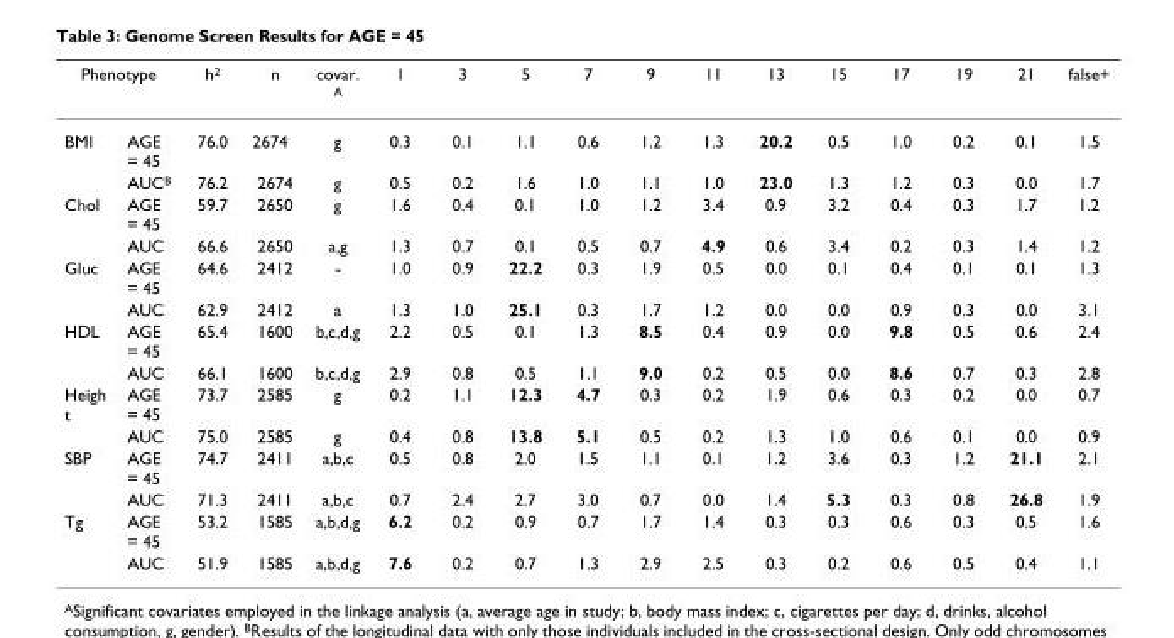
<table><thead><tr><td colspan="2">Phenotype</td><td rowspan="2">h2 76.0</td><td rowspan="2">n 2674</td><td rowspan="2">covar. A g</td><td rowspan="2">1 0.3</td><td rowspan="2">3 0.1</td><td rowspan="2">5 1.1</td><td rowspan="2">7 0.6</td><td rowspan="2">9 1.2</td><td rowspan="2">11 1.3</td><td rowspan="2">13 20.2</td><td rowspan="2">15 0.5</td><td rowspan="2">17 1.0</td><td rowspan="2">19 0.2</td><td rowspan="2">21 0.1</td><td rowspan="2">false+ 1.5</td></tr><tr><td>BMI</td><td>AGE = 45</td></tr></thead><tbody><tr><td></td><td>AUCB</td><td>76.2</td><td>2674</td><td>g</td><td>0.5</td><td>0.2</td><td>1.6</td><td>1.0</td><td>1.1</td><td>1.0</td><td>23.0</td><td>1.3</td><td>1.2</td><td>0.3</td><td>0.0</td><td>1.7</td></tr><tr><td rowspan="2">Chol</td><td>AGE = 45</td><td>59.7</td><td>2650</td><td>g</td><td>1.6</td><td>0.4</td><td>0.1</td><td>1.0</td><td>1.2</td><td>3.4</td><td>0.9</td><td>3.2</td><td>0.4</td><td>0.3</td><td>1.7</td><td>1.2</td></tr><tr><td>AUC</td><td>66.6</td><td>2650</td><td>a,g</td><td>1.3</td><td>0.7</td><td>0.1</td><td>0.5</td><td>0.7</td><td>4.9</td><td>0.6</td><td>3.4</td><td>0.2</td><td>0.3</td><td>1.4</td><td>1.2</td></tr><tr><td rowspan="2">Gluc</td><td>AGE = 45</td><td>64.6</td><td>2412</td><td>-</td><td>1.0</td><td>0.9</td><td>22.2</td><td>0.3</td><td>1.9</td><td>0.5</td><td>0.0</td><td>0.1</td><td>0.4</td><td>0.1</td><td>0.1</td><td>1.3</td></tr><tr><td>AUC</td><td>62.9</td><td>2412</td><td>a</td><td>1.3</td><td>1.0</td><td>25.1</td><td>0.3</td><td>1.7</td><td>1.2</td><td>0.0</td><td>0.0</td><td>0.9</td><td>0.3</td><td>0.0</td><td>3.1</td></tr><tr><td rowspan="2">HDL</td><td>AGE = 45</td><td>65.4</td><td>1600</td><td>b,c,d,g</td><td>2.2</td><td>0.5</td><td>0.1</td><td>1.3</td><td>8.5</td><td>0.4</td><td>0.9</td><td>0.0</td><td>9.8</td><td>0.5</td><td>0.6</td><td>2.4</td></tr><tr><td>AUC</td><td>66.1</td><td>1600</td><td>b,c,d,g</td><td>2.9</td><td>0.8</td><td>0.5</td><td>1.1</td><td>9.0</td><td>0.2</td><td>0.5</td><td>0.0</td><td>8.6</td><td>0.7</td><td>0.3</td><td>2.8</td></tr><tr><td rowspan="2">Heigh t</td><td>AGE = 45</td><td>73.7</td><td>2585</td><td>g</td><td>0.2</td><td>1.1</td><td>12.3</td><td>4.7</td><td>0.3</td><td>0.2</td><td>1.9</td><td>0.6</td><td>0.3</td><td>0.2</td><td>0.0</td><td>0.7</td></tr><tr><td>AUC</td><td>75.0</td><td>2585</td><td>g</td><td>0.4</td><td>0.8</td><td>13.8</td><td>5.1</td><td>0.5</td><td>0.2</td><td>1.3</td><td>1.0</td><td>0.6</td><td>0.1</td><td>0.0</td><td>0.9</td></tr><tr><td rowspan="2">SBP</td><td>AGE = 45</td><td>74.7</td><td>2411</td><td>a,b,c</td><td>0.5</td><td>0.8</td><td>2.0</td><td>1.5</td><td>1.1</td><td>0.1</td><td>1.2</td><td>3.6</td><td>0.3</td><td>1.2</td><td>21.1</td><td>2.1</td></tr><tr><td>AUC</td><td>71.3</td><td>2411</td><td>a,b,c</td><td>0.7</td><td>2.4</td><td>2.7</td><td>3.0</td><td>0.7</td><td>0.0</td><td>1.4</td><td>5.3</td><td>0.3</td><td>0.8</td><td>26.8</td><td>1.9</td></tr><tr><td rowspan="2">Tg</td><td>AGE = 45</td><td>53.2</td><td>1585</td><td>a,b,d,g</td><td>6.2</td><td>0.2</td><td>0.9</td><td>0.7</td><td>1.7</td><td>1.4</td><td>0.3</td><td>0.3</td><td>0.6</td><td>0.3</td><td>0.5</td><td>1.6</td></tr><tr><td>AUC</td><td>51.9</td><td>1585</td><td>a,b,d,g</td><td>7.6</td><td>0.2</td><td>0.7</td><td>1.3</td><td>2.9</td><td>2.5</td><td>0.3</td><td>0.2</td><td>0.6</td><td>0.5</td><td>0.4</td><td>1.1</td></tr></tbody></table>